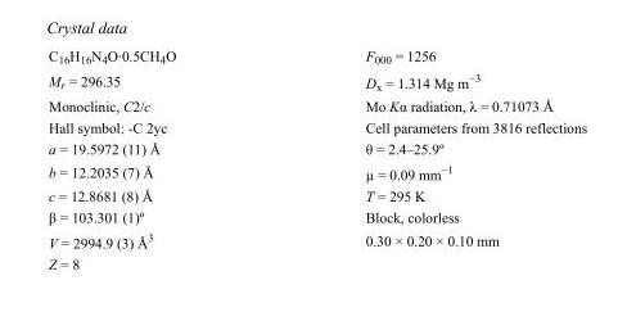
<table><tbody><tr><td>C<sub>16</sub>H<sub>16</sub>N<sub>4</sub>O·0.5CH<sub>4</sub>O</td><td>F000 = 1256</td></tr><tr><td>M<sub>r</sub> = 296.35</td><td>D<sub>x</sub> = 1.314 Mg m<sup>−3</sup></td></tr><tr><td>Monoclinic, C2/c</td><td>Mo Kα radiation, λ = 0.71073 Å</td></tr><tr><td>Hall symbol: -C 2yc</td><td>Cell parameters from 3816 reflections</td></tr><tr><td>a = 19.5972 (11) Å</td><td>θ = 2.4–25.9º</td></tr><tr><td>b = 12.2035 (7) Å</td><td>µ = 0.09 mm<sup>−1</sup></td></tr><tr><td>c = 12.8681 (8) Å</td><td>T = 295 K</td></tr><tr><td>β = 103.301 (1)º</td><td>Block, colorless</td></tr><tr><td>V = 2994.9 (3) Å<sup>3</sup></td><td>0.30 × 0.20 × 0.10 mm</td></tr><tr><td>Z = 8</td><td></td></tr></tbody></table>